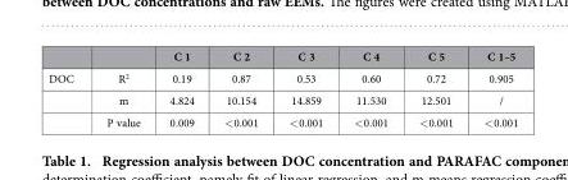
<table><thead><tr><td></td><td></td><td>C 1</td><td>C 2</td><td>C 3</td><td>C 4</td><td>C 5</td><td>C 1–5</td></tr></thead><tbody><tr><td rowspan="3">DOC</td><td>R<sup>2</sup></td><td>0.19</td><td>0.87</td><td>0.53</td><td>0.60</td><td>0.72</td><td>0.905</td></tr><tr><td>m</td><td>4.824</td><td>10.154</td><td>14.859</td><td>11.530</td><td>12.501</td><td>/</td></tr><tr><td>P value</td><td>0.009</td><td>&lt; 0.001</td><td>&lt; 0.001</td><td>&lt; 0.001</td><td>&lt; 0.001</td><td>&lt; 0.001</td></tr></tbody></table>